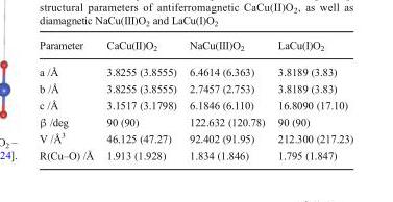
<table><thead><tr><td>Parameter</td><td>CaCu(II)O<sub>2</sub></td><td>NaCu(III)O<sub>2</sub></td><td>LaCu(I)O<sub>2</sub></td></tr></thead><tbody><tr><td>a /Å</td><td>3.8255 (3.8555)</td><td>6.4614 (6.363)</td><td>3.8189 (3.83)</td></tr><tr><td>b /Å</td><td>3.8255 (3.8555)</td><td>2.7457 (2.753)</td><td>3.8189 (3.83)</td></tr><tr><td>c /Å</td><td>3.1517 (3.1798)</td><td>6.1846 (6.110)</td><td>16.8090 (17.10)</td></tr><tr><td>β /deg</td><td>90 (90)</td><td>122.632 (120.78)</td><td>90 (90)</td></tr><tr><td>V /Å<sup>3</sup></td><td>46.125 (47.27)</td><td>92.402 (91.95)</td><td>212.300 (217.23)</td></tr><tr><td>R(Cu–O) /Å</td><td>1.913 (1.928)</td><td>1.834 (1.846)</td><td>1.795 (1.847)</td></tr></tbody></table>